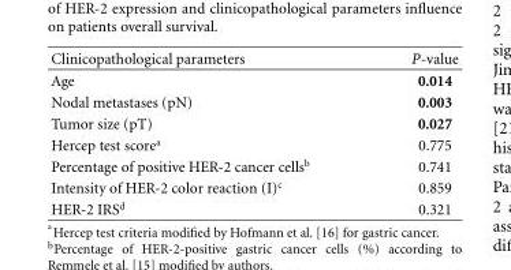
<table><thead><tr><td>Clinicopathological parameters</td><td>P-value</td></tr></thead><tbody><tr><td>Age</td><td>0.014</td></tr><tr><td>Nodal metastases (pN)</td><td>0.003</td></tr><tr><td>Tumor size (pT)</td><td>0.027</td></tr><tr><td>Hercep test score<sup>a</sup></td><td>0.775</td></tr><tr><td>Percentage of positive HER-2 cancer cells<sup>b</sup></td><td>0.741</td></tr><tr><td>Intensity of HER-2 color reaction (I)<sup>c</sup></td><td>0.859</td></tr><tr><td>HER-2 IRS<sup>d</sup></td><td>0.321</td></tr></tbody></table>